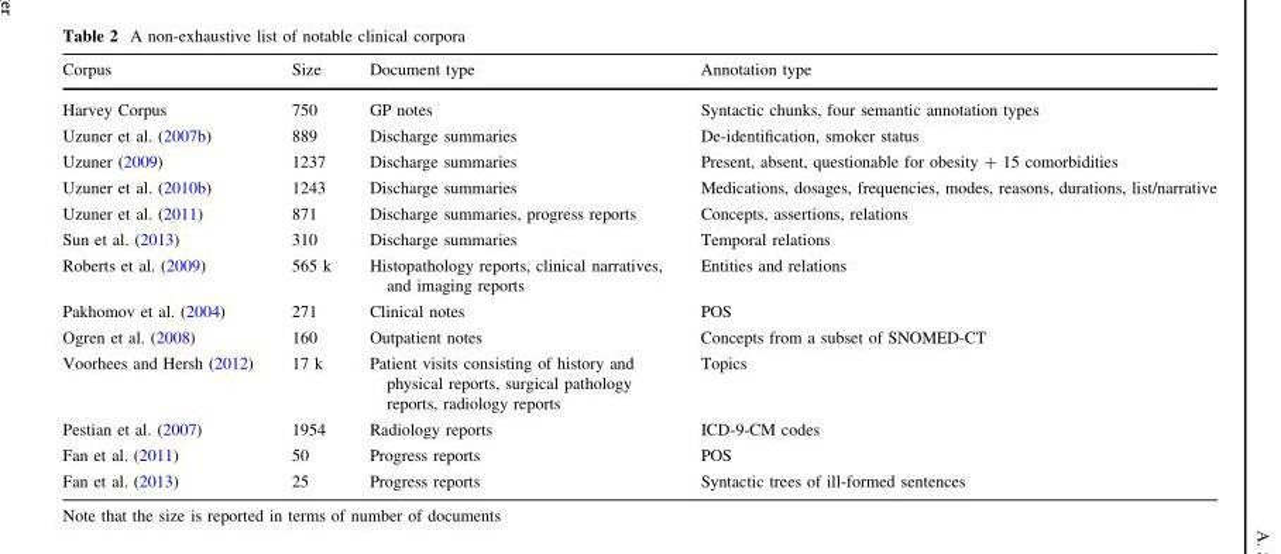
<table><thead><tr><td>Corpus</td><td>Size</td><td>Document type</td><td>Annotation type</td></tr></thead><tbody><tr><td>Harvey Corpus</td><td>750</td><td>GP notes</td><td>Syntactic chunks, four semantic annotation types</td></tr><tr><td>Uzuner et al. (2007b)</td><td>889</td><td>Discharge summaries</td><td>De-identification, smoker status</td></tr><tr><td>Uzuner (2009)</td><td>1237</td><td>Discharge summaries</td><td>Present, absent, questionable for obesity + 15 comorbidities</td></tr><tr><td>Uzuner et al. (2010b)</td><td>1243</td><td>Discharge summaries</td><td>Medications, dosages, frequencies, modes, reasons, durations, list/narrative</td></tr><tr><td>Uzuner et al. (2011)</td><td>871</td><td>Discharge summaries, progress reports</td><td>Concepts, assertions, relations</td></tr><tr><td>Sun et al. (2013)</td><td>310</td><td>Discharge summaries</td><td>Temporal relations</td></tr><tr><td>Roberts et al. (2009)</td><td>565 k</td><td>Histopathology reports, clinical narratives, and imaging reports</td><td>Entities and relations</td></tr><tr><td>Pakhomov et al. (2004)</td><td>271</td><td>Clinical notes</td><td>POS</td></tr><tr><td>Ogren et al. (2008)</td><td>160</td><td>Outpatient notes</td><td>Concepts from a subset of SNOMED-CT</td></tr><tr><td>Voorhees and Hersh (2012)</td><td>17 k</td><td>Patient visits consisting of history and physical reports, surgical pathology reports, radiology reports</td><td>Topics</td></tr><tr><td>Pestian et al. (2007)</td><td>1954</td><td>Radiology reports</td><td>ICD-9-CM codes</td></tr><tr><td>Fan et al. (2011)</td><td>50</td><td>Progress reports</td><td>POS</td></tr><tr><td>Fan et al. (2013)</td><td>25</td><td>Progress reports</td><td>Syntactic trees of ill-formed sentences</td></tr></tbody></table>